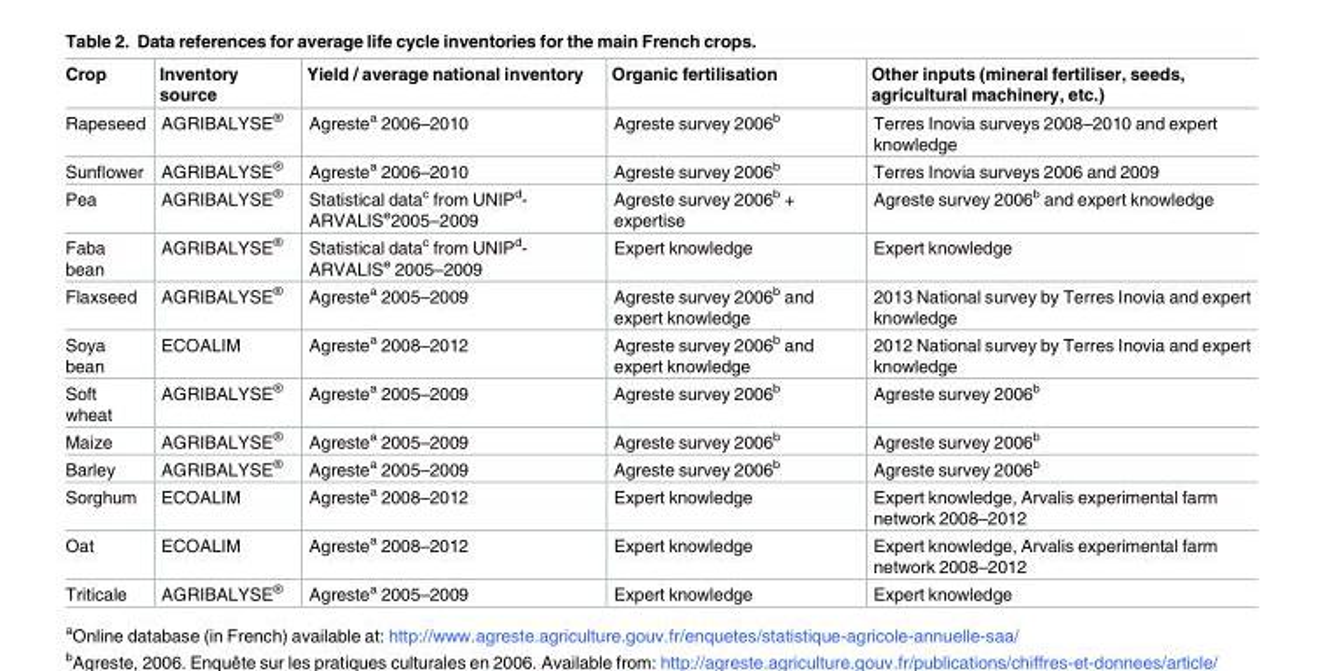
<table><thead><tr><td>Crop</td><td>Inventory source</td><td>Yield / average national inventory</td><td>Organic fertilisation</td><td>Other inputs (mineral fertiliser, seeds, agricultural machinery, etc.)</td></tr></thead><tbody><tr><td>Rapeseed</td><td>AGRIBALYSE<sup>®</sup></td><td>Agreste<sup>a</sup> 2006–2010</td><td>Agreste survey 2006<sup>b</sup></td><td>Terres Inovia surveys 2008–2010 and expert knowledge</td></tr><tr><td>Sunflower</td><td>AGRIBALYSE<sup>®</sup></td><td>Agreste<sup>a</sup> 2006–2010</td><td>Agreste survey 2006<sup>b</sup></td><td>Terres Inovia surveys 2006 and 2009</td></tr><tr><td>Pea</td><td>AGRIBALYSE<sup>®</sup></td><td>Statistical data<sup>c</sup> from UNIP<sup>d</sup>- ARVALIS<sup>e</sup>2005–2009</td><td>Agreste survey 2006<sup>b</sup> + expertise</td><td>Agreste survey 2006<sup>b</sup> and expert knowledge</td></tr><tr><td>Faba bean</td><td>AGRIBALYSE<sup>®</sup></td><td>Statistical data<sup>c</sup> from UNIP<sup>d</sup>- ARVALIS<sup>e</sup> 2005–2009</td><td>Expert knowledge</td><td>Expert knowledge</td></tr><tr><td>Flaxseed</td><td>AGRIBALYSE<sup>®</sup></td><td>Agreste<sup>a</sup> 2005–2009</td><td>Agreste survey 2006<sup>b</sup> and expert knowledge</td><td>2013 National survey by Terres Inovia and expert knowledge</td></tr><tr><td>Soya bean</td><td>ECOALIM</td><td>Agreste<sup>a</sup> 2008–2012</td><td>Agreste survey 2006<sup>b</sup> and expert knowledge</td><td>2012 National survey by Terres Inovia and expert knowledge</td></tr><tr><td>Soft wheat</td><td>AGRIBALYSE<sup>®</sup></td><td>Agreste<sup>a</sup> 2005–2009</td><td>Agreste survey 2006<sup>b</sup></td><td>Agreste survey 2006<sup>b</sup></td></tr><tr><td>Maize</td><td>AGRIBALYSE<sup>®</sup></td><td>Agreste<sup>a</sup> 2005–2009</td><td>Agreste survey 2006<sup>b</sup></td><td>Agreste survey 2006<sup>b</sup></td></tr><tr><td>Barley</td><td>AGRIBALYSE<sup>®</sup></td><td>Agreste<sup>a</sup> 2005–2009</td><td>Agreste survey 2006<sup>b</sup></td><td>Agreste survey 2006<sup>b</sup></td></tr><tr><td>Sorghum</td><td>ECOALIM</td><td>Agreste<sup>a</sup> 2008–2012</td><td>Expert knowledge</td><td>Expert knowledge, Arvalis experimental farm network 2008–2012</td></tr><tr><td>Oat</td><td>ECOALIM</td><td>Agreste<sup>a</sup> 2008–2012</td><td>Expert knowledge</td><td>Expert knowledge, Arvalis experimental farm network 2008–2012</td></tr><tr><td>Triticale</td><td>AGRIBALYSE<sup>®</sup></td><td>Agreste<sup>a</sup> 2005–2009</td><td>Expert knowledge</td><td>Expert knowledge</td></tr></tbody></table>